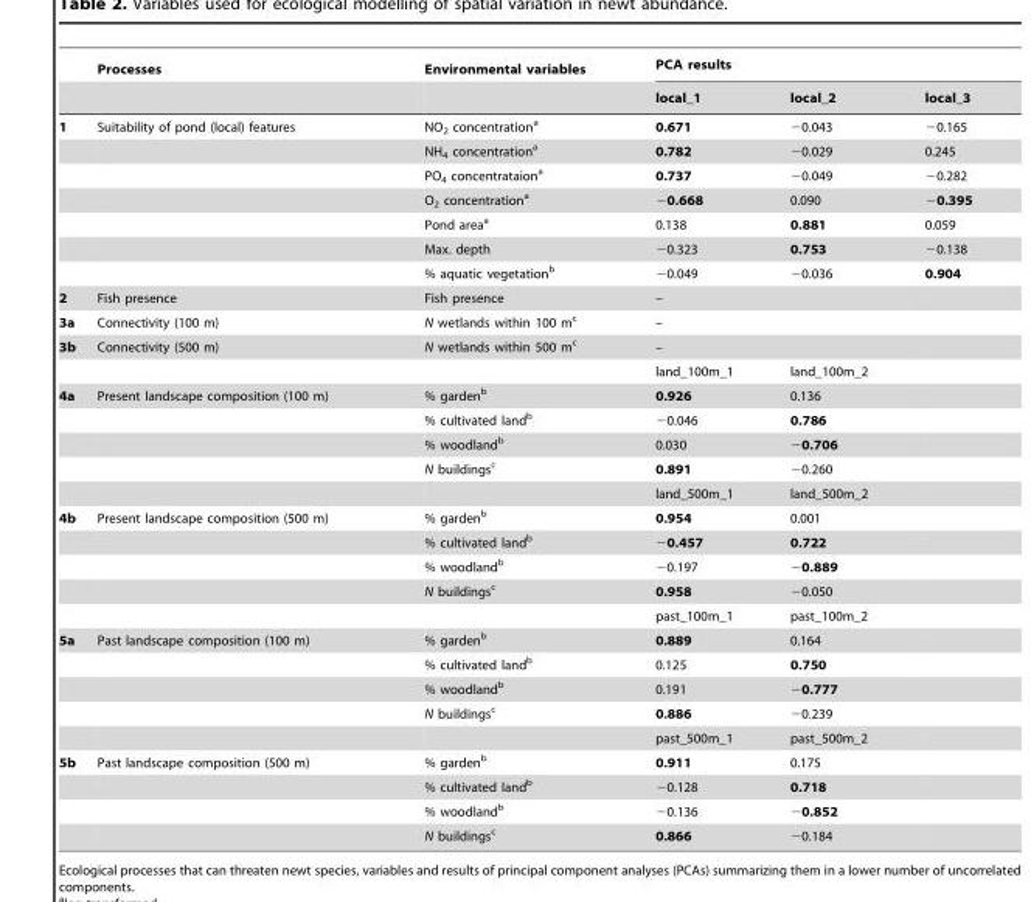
<table><thead><tr><td rowspan="2"></td><td rowspan="2">Processes</td><td rowspan="2">Environmental variables</td><td colspan="3">PCA results</td></tr><tr><td>local_1</td><td>local_2</td><td>local_3</td></tr></thead><tbody><tr><td rowspan="7">1</td><td>Suitability of pond (local) features</td><td>NO<sub>2</sub> concentration<sup>a</sup></td><td>0.671</td><td>−0.043</td><td>−0.165</td></tr><tr><td></td><td>NH<sub>4</sub> concentration<sup>a</sup></td><td>0.782</td><td>−0.029</td><td>0.245</td></tr><tr><td></td><td>PO<sub>4</sub> concentrataion<sup>a</sup></td><td>0.737</td><td>−0.049</td><td>−0.282</td></tr><tr><td></td><td>O<sub>2</sub> concentration<sup>a</sup></td><td>−0.668</td><td>0.090</td><td>−0.395</td></tr><tr><td></td><td>Pond area<sup>a</sup></td><td>0.138</td><td>0.881</td><td>0.059</td></tr><tr><td></td><td>Max. depth</td><td>−0.323</td><td>0.753</td><td>−0.138</td></tr><tr><td></td><td>% aquatic vegetation<sup>b</sup></td><td>−0.049</td><td>−0.036</td><td>0.904</td></tr><tr><td>2</td><td>Fish presence</td><td>Fish presence</td><td>–</td><td></td><td></td></tr><tr><td>3a</td><td>Connectivity (100 m)</td><td>N wetlands within 100 m<sup>c</sup></td><td>–</td><td></td><td></td></tr><tr><td rowspan="2">3b</td><td>Connectivity (500 m)</td><td>N wetlands within 500 m<sup>c</sup></td><td>–</td><td></td><td></td></tr><tr><td></td><td></td><td>land_100m_1</td><td>land_100m_2</td><td></td></tr><tr><td rowspan="5">4a</td><td>Present landscape composition (100 m)</td><td>% garden<sup>b</sup></td><td>0.926</td><td>0.136</td><td></td></tr><tr><td></td><td>% cultivated land<sup>b</sup></td><td>−0.046</td><td>0.786</td><td></td></tr><tr><td></td><td>% woodland<sup>b</sup></td><td>0.030</td><td>−0.706</td><td></td></tr><tr><td></td><td>N buildings<sup>c</sup></td><td>0.891</td><td>−0.260</td><td></td></tr><tr><td></td><td></td><td>land_500m_1</td><td>land_500m_2</td><td></td></tr><tr><td rowspan="5">4b</td><td>Present landscape composition (500 m)</td><td>% garden<sup>b</sup></td><td>0.954</td><td>0.001</td><td></td></tr><tr><td></td><td>% cultivated land<sup>b</sup></td><td>−0.457</td><td>0.722</td><td></td></tr><tr><td></td><td>% woodland<sup>b</sup></td><td>−0.197</td><td>−0.889</td><td></td></tr><tr><td></td><td>N buildings<sup>c</sup></td><td>0.958</td><td>−0.050</td><td></td></tr><tr><td></td><td></td><td>past_100m_1</td><td>past_100m_2</td><td></td></tr><tr><td rowspan="5">5a</td><td>Past landscape composition (100 m)</td><td>% garden<sup>b</sup></td><td>0.889</td><td>0.164</td><td></td></tr><tr><td></td><td>% cultivated land<sup>b</sup></td><td>0.125</td><td>0.750</td><td></td></tr><tr><td></td><td>% woodland<sup>b</sup></td><td>0.191</td><td>−0.777</td><td></td></tr><tr><td></td><td>N buildings<sup>c</sup></td><td>0.886</td><td>−0.239</td><td></td></tr><tr><td></td><td></td><td>past_500m_1</td><td>past_500m_2</td><td></td></tr><tr><td rowspan="4">5b</td><td>Past landscape composition (500 m)</td><td>% garden<sup>b</sup></td><td>0.911</td><td>0.175</td><td></td></tr><tr><td></td><td>% cultivated land<sup>b</sup></td><td>−0.128</td><td>0.718</td><td></td></tr><tr><td></td><td>% woodland<sup>b</sup></td><td>−0.136</td><td>−0.852</td><td></td></tr><tr><td></td><td>N buildings<sup>c</sup></td><td>0.866</td><td>−0.184</td><td></td></tr></tbody></table>